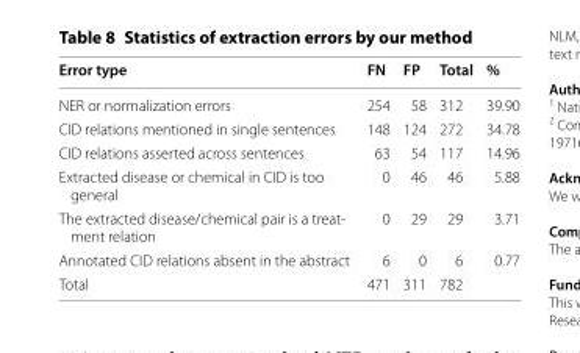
<table><thead><tr><td>Error type</td><td>FN</td><td>FP</td><td>Total</td><td>%</td></tr></thead><tbody><tr><td>NER or normalization errors</td><td>254</td><td>58</td><td>312</td><td>39.90</td></tr><tr><td>CID relations mentioned in single sentences</td><td>148</td><td>124</td><td>272</td><td>34.78</td></tr><tr><td>CID relations asserted across sentences</td><td>63</td><td>54</td><td>117</td><td>14.96</td></tr><tr><td>Extracted disease or chemical in CID is too general</td><td>0</td><td>46</td><td>46</td><td>5.88</td></tr><tr><td>The extracted disease/chemical pair is a treat‑ ment relation</td><td>0</td><td>29</td><td>29</td><td>3.71</td></tr><tr><td>Annotated CID relations absent in the abstract</td><td>6</td><td>0</td><td>6</td><td>0.77</td></tr><tr><td>Total</td><td>471</td><td>311</td><td>782</td><td></td></tr></tbody></table>